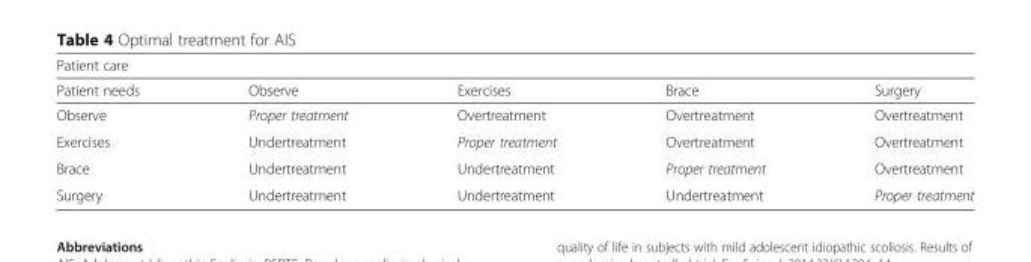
<table><thead><tr><td colspan="5">Patient care</td></tr><tr><td>Patient needs</td><td>Observe</td><td>Exercises</td><td>Brace</td><td>Surgery</td></tr></thead><tbody><tr><td>Observe</td><td>Proper treatment</td><td>Overtreatment</td><td>Overtreatment</td><td>Overtreatment</td></tr><tr><td>Exercises</td><td>Undertreatment</td><td>Proper treatment</td><td>Overtreatment</td><td>Overtreatment</td></tr><tr><td>Brace</td><td>Undertreatment</td><td>Undertreatment</td><td>Proper treatment</td><td>Overtreatment</td></tr><tr><td>Surgery</td><td>Undertreatment</td><td>Undertreatment</td><td>Undertreatment</td><td>Proper treatment</td></tr></tbody></table>